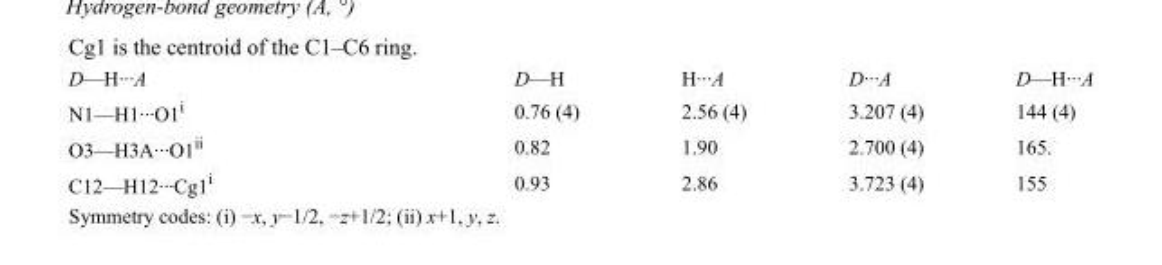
<table><tbody><tr><td>D—H···A</td><td>D—H</td><td>H···A</td><td>D···A</td><td>D—H···A</td></tr><tr><td>N1—H1···O1<sup>i</sup></td><td>0.76 (4)</td><td>2.56 (4)</td><td>3.207 (4)</td><td>144 (4)</td></tr><tr><td>O3—H3A···O1<sup>ii</sup></td><td>0.82</td><td>1.90</td><td>2.700 (4)</td><td>165.</td></tr><tr><td>C12—H12···Cg1<sup>i</sup></td><td>0.93</td><td>2.86</td><td>3.723 (4)</td><td>155</td></tr></tbody></table>